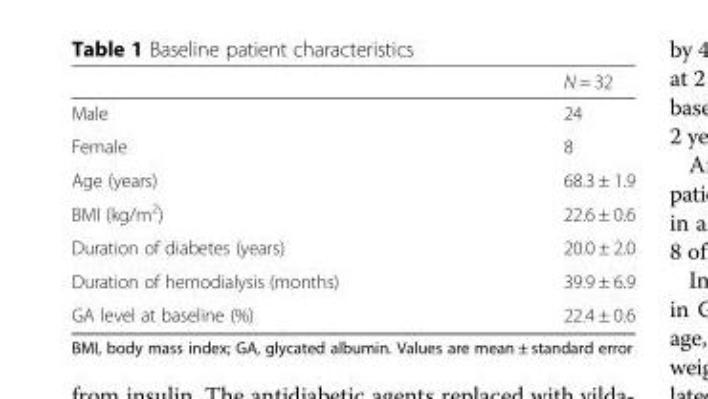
<table><thead><tr><td></td><td>N = 32</td></tr></thead><tbody><tr><td>Male</td><td>24</td></tr><tr><td>Female</td><td>8</td></tr><tr><td>Age (years)</td><td>68.3 ± 1.9</td></tr><tr><td>BMI (kg/m<sup>2</sup>)</td><td>22.6 ± 0.6</td></tr><tr><td>Duration of diabetes (years)</td><td>20.0 ± 2.0</td></tr><tr><td>Duration of hemodialysis (months)</td><td>39.9 ± 6.9</td></tr><tr><td>GA level at baseline (%)</td><td>22.4 ± 0.6</td></tr></tbody></table>